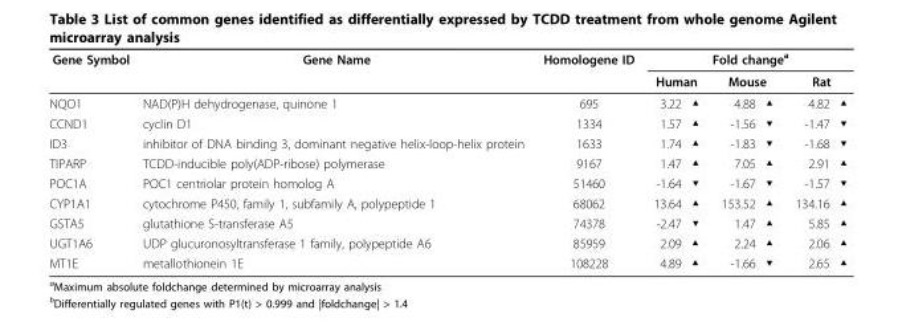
<table><thead><tr><td rowspan="3">Gene Symbol NQO1</td><td rowspan="3">Gene Name NAD(P)H dehydrogenase, quinone 1</td><td rowspan="3">Homologene ID 695</td><td colspan="6">Fold change<sup>a</sup></td></tr><tr><td colspan="2">Human</td><td colspan="2">Mouse</td><td colspan="2">Rat</td></tr><tr><td>3.22</td><td>▲</td><td>4.88</td><td>▲</td><td>4.82</td><td>▲</td></tr></thead><tbody><tr><td>CCND1</td><td>cyclin D1</td><td>1334</td><td>1.57</td><td>▲</td><td>-1.56</td><td>▼</td><td>-1.47</td><td>▼</td></tr><tr><td>ID3</td><td>inhibitor of DNA binding 3, dominant negative helix-loop-helix protein</td><td>1633</td><td>1.74</td><td>▲</td><td>-1.83</td><td>▼</td><td>-1.68</td><td>▼</td></tr><tr><td>TIPARP</td><td>TCDD-inducible poly(ADP-ribose) polymerase</td><td>9167</td><td>1.47</td><td>▲</td><td>7.05</td><td>▲</td><td>2.91</td><td>▲</td></tr><tr><td>POC1A</td><td>POC1 centriolar protein homolog A</td><td>51460</td><td>-1.64</td><td>▼</td><td>-1.67</td><td>▼</td><td>-1.57</td><td>▼</td></tr><tr><td>CYP1A1</td><td>cytochrome P450, family 1, subfamily A, polypeptide 1</td><td>68062</td><td>13.64</td><td>▲</td><td>153.52</td><td>▲</td><td>134.16</td><td>▲</td></tr><tr><td>GSTA5</td><td>glutathione S-transferase A5</td><td>74378</td><td>-2.47</td><td>▼</td><td>1.47</td><td>▲</td><td>5.85</td><td>▲</td></tr><tr><td>UGT1A6</td><td>UDP glucuronosyltransferase 1 family, polypeptide A6</td><td>85959</td><td>2.09</td><td>▲</td><td>2.24</td><td>▲</td><td>2.06</td><td>▲</td></tr><tr><td>MT1E</td><td>metallothionein 1E</td><td>108228</td><td>4.89</td><td>▲</td><td>-1.66</td><td>▼</td><td>2.65</td><td>▲</td></tr></tbody></table>